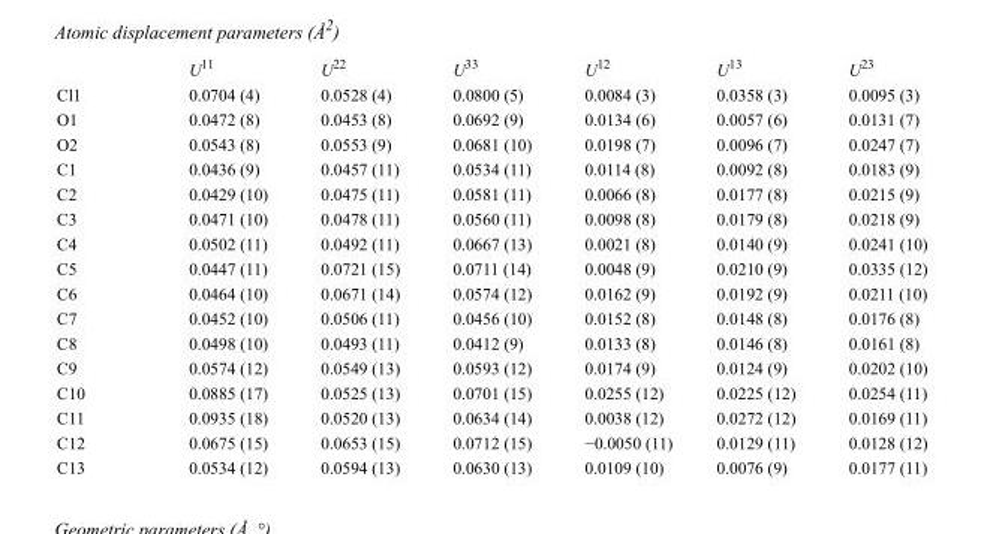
<table><thead><tr><td></td><td>U<sup>11</sup></td><td>U<sup>22</sup></td><td>U<sup>33</sup></td><td>U<sup>12</sup></td><td>U<sup>13</sup></td><td>U<sup>23</sup></td></tr></thead><tbody><tr><td>Cl1</td><td>0.0704 (4)</td><td>0.0528 (4)</td><td>0.0800 (5)</td><td>0.0084 (3)</td><td>0.0358 (3)</td><td>0.0095 (3)</td></tr><tr><td>O1</td><td>0.0472 (8)</td><td>0.0453 (8)</td><td>0.0692 (9)</td><td>0.0134 (6)</td><td>0.0057 (6)</td><td>0.0131 (7)</td></tr><tr><td>O2</td><td>0.0543 (8)</td><td>0.0553 (9)</td><td>0.0681 (10)</td><td>0.0198 (7)</td><td>0.0096 (7)</td><td>0.0247 (7)</td></tr><tr><td>C1</td><td>0.0436 (9)</td><td>0.0457 (11)</td><td>0.0534 (11)</td><td>0.0114 (8)</td><td>0.0092 (8)</td><td>0.0183 (9)</td></tr><tr><td>C2</td><td>0.0429 (10)</td><td>0.0475 (11)</td><td>0.0581 (11)</td><td>0.0066 (8)</td><td>0.0177 (8)</td><td>0.0215 (9)</td></tr><tr><td>C3</td><td>0.0471 (10)</td><td>0.0478 (11)</td><td>0.0560 (11)</td><td>0.0098 (8)</td><td>0.0179 (8)</td><td>0.0218 (9)</td></tr><tr><td>C4</td><td>0.0502 (11)</td><td>0.0492 (11)</td><td>0.0667 (13)</td><td>0.0021 (8)</td><td>0.0140 (9)</td><td>0.0241 (10)</td></tr><tr><td>C5</td><td>0.0447 (11)</td><td>0.0721 (15)</td><td>0.0711 (14)</td><td>0.0048 (9)</td><td>0.0210 (9)</td><td>0.0335 (12)</td></tr><tr><td>C6</td><td>0.0464 (10)</td><td>0.0671 (14)</td><td>0.0574 (12)</td><td>0.0162 (9)</td><td>0.0192 (9)</td><td>0.0211 (10)</td></tr><tr><td>C7</td><td>0.0452 (10)</td><td>0.0506 (11)</td><td>0.0456 (10)</td><td>0.0152 (8)</td><td>0.0148 (8)</td><td>0.0176 (8)</td></tr><tr><td>C8</td><td>0.0498 (10)</td><td>0.0493 (11)</td><td>0.0412 (9)</td><td>0.0133 (8)</td><td>0.0146 (8)</td><td>0.0161 (8)</td></tr><tr><td>C9</td><td>0.0574 (12)</td><td>0.0549 (13)</td><td>0.0593 (12)</td><td>0.0174 (9)</td><td>0.0124 (9)</td><td>0.0202 (10)</td></tr><tr><td>C10</td><td>0.0885 (17)</td><td>0.0525 (13)</td><td>0.0701 (15)</td><td>0.0255 (12)</td><td>0.0225 (12)</td><td>0.0254 (11)</td></tr><tr><td>C11</td><td>0.0935 (18)</td><td>0.0520 (13)</td><td>0.0634 (14)</td><td>0.0038 (12)</td><td>0.0272 (12)</td><td>0.0169 (11)</td></tr><tr><td>C12</td><td>0.0675 (15)</td><td>0.0653 (15)</td><td>0.0712 (15)</td><td>−0.0050 (11)</td><td>0.0129 (11)</td><td>0.0128 (12)</td></tr><tr><td>C13</td><td>0.0534 (12)</td><td>0.0594 (13)</td><td>0.0630 (13)</td><td>0.0109 (10)</td><td>0.0076 (9)</td><td>0.0177 (11)</td></tr></tbody></table>